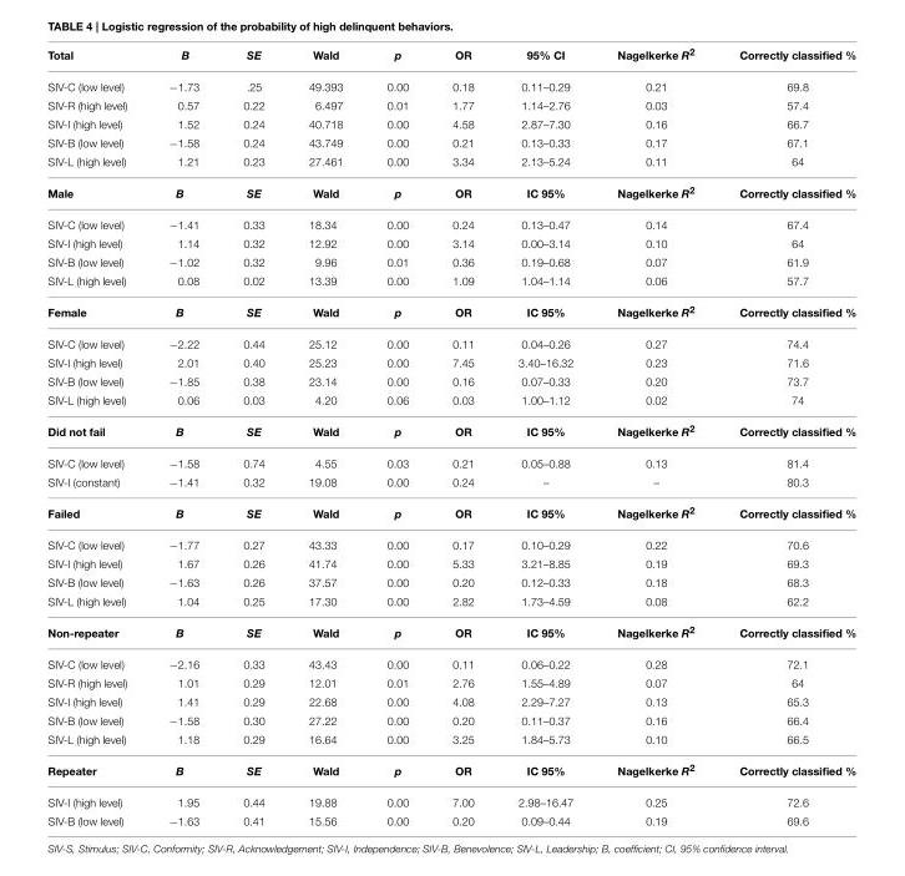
<table><thead><tr><td>Total</td><td>B</td><td>SE</td><td>Wald</td><td>p</td><td>OR</td><td>95% CI</td><td>Nagelkerke R<sup>2</sup></td><td>Correctly classified %</td></tr></thead><tbody><tr><td>SIV-C (low level)</td><td>−1.73</td><td>.25</td><td>49.393</td><td>0.00</td><td>0.18</td><td>0.11–0.29</td><td>0.21</td><td>69.8</td></tr><tr><td>SIV-R (high level)</td><td>0.57</td><td>0.22</td><td>6.497</td><td>0.01</td><td>1.77</td><td>1.14–2.76</td><td>0.03</td><td>57.4</td></tr><tr><td>SIV-I (high level)</td><td>1.52</td><td>0.24</td><td>40.718</td><td>0.00</td><td>4.58</td><td>2.87–7.30</td><td>0.16</td><td>66.7</td></tr><tr><td>SIV-B (low level)</td><td>−1.58</td><td>0.24</td><td>43.749</td><td>0.00</td><td>0.21</td><td>0.13–0.33</td><td>0.17</td><td>67.1</td></tr><tr><td>SIV-L (high level)</td><td>1.21</td><td>0.23</td><td>27.461</td><td>0.00</td><td>3.34</td><td>2.13–5.24</td><td>0.11</td><td>64</td></tr><tr><td>Male</td><td>B</td><td>SE</td><td>Wald</td><td>p</td><td>OR</td><td>IC 95%</td><td>Nagelkerke R<sup>2</sup></td><td>Correctly classified %</td></tr><tr><td>SIV-C (low level)</td><td>−1.41</td><td>0.33</td><td>18.34</td><td>0.00</td><td>0.24</td><td>0.13–0.47</td><td>0.14</td><td>67.4</td></tr><tr><td>SIV-I (high level)</td><td>1.14</td><td>0.32</td><td>12.92</td><td>0.00</td><td>3.14</td><td>0.00–3.14</td><td>0.10</td><td>64</td></tr><tr><td>SIV-B (low level)</td><td>−1.02</td><td>0.32</td><td>9.96</td><td>0.01</td><td>0.36</td><td>0.19–0.68</td><td>0.07</td><td>61.9</td></tr><tr><td>SIV-L (high level)</td><td>0.08</td><td>0.02</td><td>13.39</td><td>0.00</td><td>1.09</td><td>1.04–1.14</td><td>0.06</td><td>57.7</td></tr><tr><td>Female</td><td>B</td><td>SE</td><td>Wald</td><td>p</td><td>OR</td><td>IC 95%</td><td>Nagelkerke R<sup>2</sup></td><td>Correctly classified %</td></tr><tr><td>SIV-C (low level)</td><td>−2.22</td><td>0.44</td><td>25.12</td><td>0.00</td><td>0.11</td><td>0.04–0.26</td><td>0.27</td><td>74.4</td></tr><tr><td>SIV-I (high level)</td><td>2.01</td><td>0.40</td><td>25.23</td><td>0.00</td><td>7.45</td><td>3.40–16.32</td><td>0.23</td><td>71.6</td></tr><tr><td>SIV-B (low level)</td><td>−1.85</td><td>0.38</td><td>23.14</td><td>0.00</td><td>0.16</td><td>0.07–0.33</td><td>0.20</td><td>73.7</td></tr><tr><td>SIV-L (high level)</td><td>0.06</td><td>0.03</td><td>4.20</td><td>0.06</td><td>0.03</td><td>1.00–1.12</td><td>0.02</td><td>74</td></tr><tr><td>Did not fail</td><td>B</td><td>SE</td><td>Wald</td><td>p</td><td>OR</td><td>IC 95%</td><td>Nagelkerke R<sup>2</sup></td><td>Correctly classified %</td></tr><tr><td>SIV-C (low level)</td><td>−1.58</td><td>0.74</td><td>4.55</td><td>0.03</td><td>0.21</td><td>0.05–0.88</td><td>0.13</td><td>81.4</td></tr><tr><td>SIV-I (constant)</td><td>−1.41</td><td>0.32</td><td>19.08</td><td>0.00</td><td>0.24</td><td>–</td><td>–</td><td>80.3</td></tr><tr><td>Failed</td><td>B</td><td>SE</td><td>Wald</td><td>p</td><td>OR</td><td>IC 95%</td><td>Nagelkerke R<sup>2</sup></td><td>Correctly classified %</td></tr><tr><td>SIV-C (low level)</td><td>−1.77</td><td>0.27</td><td>43.33</td><td>0.00</td><td>0.17</td><td>0.10–0.29</td><td>0.22</td><td>70.6</td></tr><tr><td>SIV-I (high level)</td><td>1.67</td><td>0.26</td><td>41.74</td><td>0.00</td><td>5.33</td><td>3.21–8.85</td><td>0.19</td><td>69.3</td></tr><tr><td>SIV-B (low level)</td><td>−1.63</td><td>0.26</td><td>37.57</td><td>0.00</td><td>0.20</td><td>0.12–0.33</td><td>0.18</td><td>68.3</td></tr><tr><td>SIV-L (high level)</td><td>1.04</td><td>0.25</td><td>17.30</td><td>0.00</td><td>2.82</td><td>1.73–4.59</td><td>0.08</td><td>62.2</td></tr><tr><td>Non-repeater</td><td>B</td><td>SE</td><td>Wald</td><td>p</td><td>OR</td><td>IC 95%</td><td>Nagelkerke R<sup>2</sup></td><td>Correctly classified %</td></tr><tr><td>SIV-C (low level)</td><td>−2.16</td><td>0.33</td><td>43.43</td><td>0.00</td><td>0.11</td><td>0.06–0.22</td><td>0.28</td><td>72.1</td></tr><tr><td>SIV-R (high level)</td><td>1.01</td><td>0.29</td><td>12.01</td><td>0.01</td><td>2.76</td><td>1.55–4.89</td><td>0.07</td><td>64</td></tr><tr><td>SIV-I (high level)</td><td>1.41</td><td>0.29</td><td>22.68</td><td>0.00</td><td>4.08</td><td>2.29–7.27</td><td>0.13</td><td>65.3</td></tr><tr><td>SIV-B (low level)</td><td>−1.58</td><td>0.30</td><td>27.22</td><td>0.00</td><td>0.20</td><td>0.11–0.37</td><td>0.16</td><td>66.4</td></tr><tr><td>SIV-L (high level)</td><td>1.18</td><td>0.29</td><td>16.64</td><td>0.00</td><td>3.25</td><td>1.84–5.73</td><td>0.10</td><td>66.5</td></tr><tr><td>Repeater</td><td>B</td><td>SE</td><td>Wald</td><td>p</td><td>OR</td><td>IC 95%</td><td>Nagelkerke R<sup>2</sup></td><td>Correctly classified %</td></tr><tr><td>SIV-I (high level)</td><td>1.95</td><td>0.44</td><td>19.88</td><td>0.00</td><td>7.00</td><td>2.98–16.47</td><td>0.25</td><td>72.6</td></tr><tr><td>SIV-B (low level)</td><td>−1.63</td><td>0.41</td><td>15.56</td><td>0.00</td><td>0.20</td><td>0.09–0.44</td><td>0.19</td><td>69.6</td></tr></tbody></table>